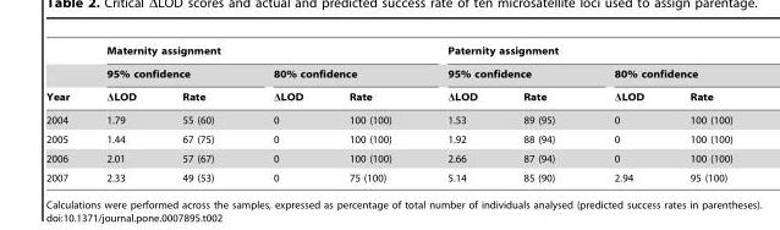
<table><thead><tr><td rowspan="3">Year</td><td colspan="4">Maternity assignment</td><td colspan="4">Paternity assignment</td></tr><tr><td colspan="2">95% confidence</td><td colspan="2">80% confidence</td><td colspan="2">95% confidence</td><td colspan="2">80% confidence</td></tr><tr><td>ΔLOD</td><td>Rate</td><td>ΔLOD</td><td>Rate</td><td>ΔLOD</td><td>Rate</td><td>ΔLOD</td><td>Rate</td></tr></thead><tbody><tr><td>2004</td><td>1.79</td><td>55 (60)</td><td>0</td><td>100 (100)</td><td>1.53</td><td>89 (95)</td><td>0</td><td>100 (100)</td></tr><tr><td>2005</td><td>1.44</td><td>67 (75)</td><td>0</td><td>100 (100)</td><td>1.92</td><td>88 (94)</td><td>0</td><td>100 (100)</td></tr><tr><td>2006</td><td>2.01</td><td>57 (67)</td><td>0</td><td>100 (100)</td><td>2.66</td><td>87 (94)</td><td>0</td><td>100 (100)</td></tr><tr><td>2007</td><td>2.33</td><td>49 (53)</td><td>0</td><td>75 (100)</td><td>5.14</td><td>85 (90)</td><td>2.94</td><td>95 (100)</td></tr></tbody></table>